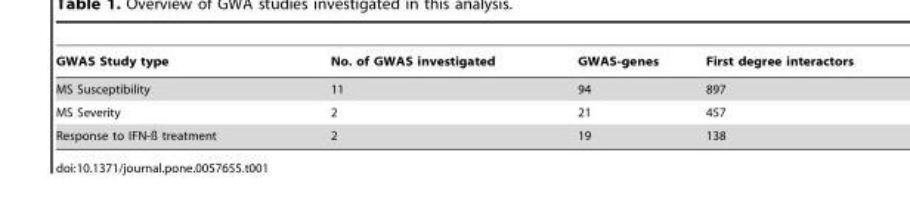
<table><thead><tr><td>GWAS Study type</td><td>No. of GWAS investigated</td><td>GWAS-genes</td><td>First degree interactors</td></tr></thead><tbody><tr><td>MS Susceptibility</td><td>11</td><td>94</td><td>897</td></tr><tr><td>MS Severity</td><td>2</td><td>21</td><td>457</td></tr><tr><td>Response to IFN-ß treatment</td><td>2</td><td>19</td><td>138</td></tr></tbody></table>